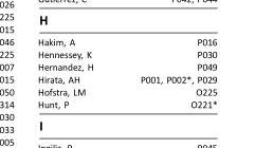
<table><tbody><tr><td>Hakim, A</td><td>P016</td></tr><tr><td>Hennessey, K</td><td>P030</td></tr><tr><td>Hernandez, H</td><td>P049</td></tr><tr><td>Hirata, AH</td><td>P001, P002*, P029</td></tr><tr><td>Hofstra, LM</td><td>O225</td></tr><tr><td>Hunt, P</td><td>O221*</td></tr></tbody></table>